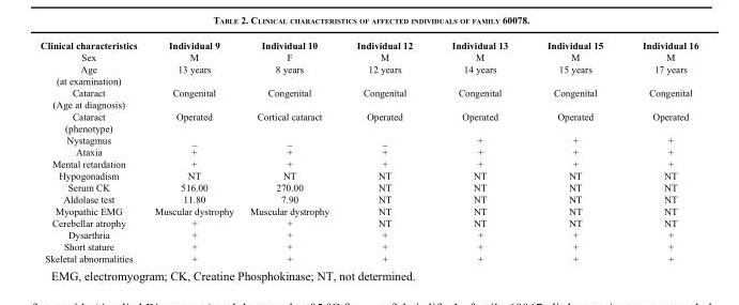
<table><thead><tr><td>Clinical characteristics</td><td>Individual 9</td><td>Individual 10</td><td>Individual 12</td><td>Individual 13</td><td>Individual 15</td><td>Individual 16</td></tr></thead><tbody><tr><td>Sex</td><td>M</td><td>F</td><td>M</td><td>M</td><td>M</td><td>M</td></tr><tr><td>Age (at examination)</td><td>13 years</td><td>8 years</td><td>12 years</td><td>14 years</td><td>15 years</td><td>17 years</td></tr><tr><td>Cataract (Age at diagnosis)</td><td>Congenital</td><td>Congenital</td><td>Congenital</td><td>Congenital</td><td>Congenital</td><td>Congenital</td></tr><tr><td>Cataract (phenotype)</td><td>Operated</td><td>Cortical cataract</td><td>Operated</td><td>Operated</td><td>Operated</td><td>Operated</td></tr><tr><td>Nystagmus</td><td>_</td><td>_</td><td>_</td><td>+</td><td>+</td><td>+</td></tr><tr><td>Ataxia</td><td>+</td><td>+</td><td>+</td><td>+</td><td>+</td><td>+</td></tr><tr><td>Mental retardation</td><td>+</td><td>+</td><td>+</td><td>+</td><td>+</td><td>+</td></tr><tr><td>Hypogonadism</td><td>NT</td><td>NT</td><td>NT</td><td>NT</td><td>NT</td><td>NT</td></tr><tr><td>Serum CK</td><td>516.00</td><td>270.00</td><td>NT</td><td>NT</td><td>NT</td><td>NT</td></tr><tr><td>Aldolase test</td><td>11.80</td><td>7.90</td><td>NT</td><td>NT</td><td>NT</td><td>NT</td></tr><tr><td>Myopathic EMG</td><td>Muscular dystrophy</td><td>Muscular dystrophy</td><td>NT</td><td>NT</td><td>NT</td><td>NT</td></tr><tr><td>Cerebellar atrophy</td><td>+</td><td>+</td><td>NT</td><td>NT</td><td>NT</td><td>NT</td></tr><tr><td>Dysarthria</td><td>+</td><td>+</td><td>+</td><td>+</td><td>+</td><td>+</td></tr><tr><td>Short stature</td><td>+</td><td>+</td><td>+</td><td>+</td><td>+</td><td>+</td></tr><tr><td>Skeletal abnormalities</td><td>+</td><td>+</td><td>+</td><td>+</td><td>+</td><td>+</td></tr></tbody></table>